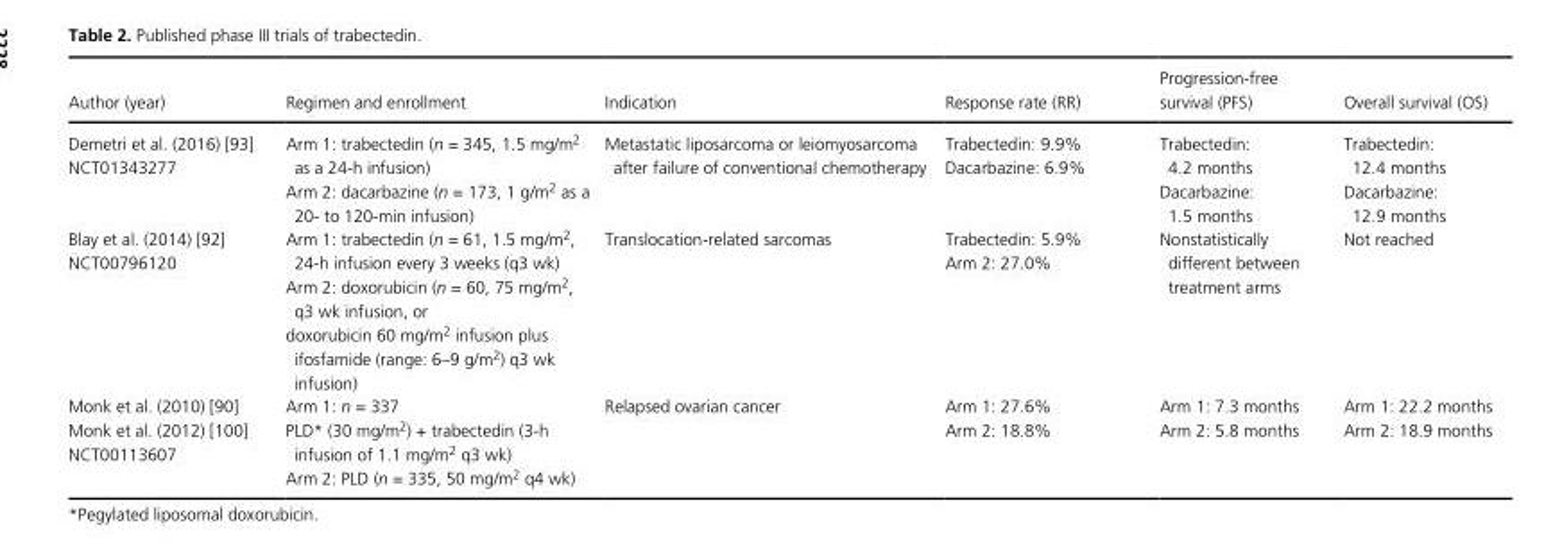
<table><thead><tr><td>Author (year)</td><td>Regimen and enrollment</td><td>Indication</td><td>Response rate (RR)</td><td>Progression- free survival (PFS)</td><td>Overall survival (OS)</td></tr></thead><tbody><tr><td>Demetri et al. (2016) [93] NCT01343277</td><td>Arm 1: trabectedin (n = 345, 1.5 mg/m<sup>2</sup> as a 24- h infusion) Arm 2: dacarbazine (n = 173, 1 g/m<sup>2</sup> as a 20- to 120- min infusion)</td><td>Metastatic liposarcoma or leiomyosarcoma after failure of conventional chemotherapy</td><td>Trabectedin: 9.9% Dacarbazine: 6.9%</td><td>Trabectedin: 4.2 months Dacarbazine: 1.5 months</td><td>Trabectedin: 12.4 months Dacarbazine: 12.9 months</td></tr><tr><td>Blay et al. (2014) [92] NCT00796120</td><td>Arm 1: trabectedin (n = 61, 1.5 mg/m<sup>2</sup>, 24- h infusion every 3 weeks (q3 wk) Arm 2: doxorubicin (n = 60, 75 mg/m<sup>2</sup>, q3 wk infusion, or doxorubicin 60 mg/m<sup>2</sup> infusion plus ifosfamide (range: 6–9 g/m<sup>2</sup>) q3 wk infusion)</td><td>Translocation- related sarcomas</td><td>Trabectedin: 5.9% Arm 2: 27.0%</td><td>Nonstatistically different between treatment arms</td><td>Not reached</td></tr><tr><td>Monk et al. (2010) [90] Monk et al. (2012) [100] NCT00113607</td><td>Arm 1: n = 337 PLD* (30 mg/m2) + trabectedin (3- h infusion of 1.1 mg/m2 q3 wk) Arm 2: PLD (n = 335, 50 mg/m2 q4 wk)</td><td>Relapsed ovarian cancer</td><td>Arm 1: 27.6% Arm 2: 18.8%</td><td>Arm 1: 7.3 months Arm 2: 5.8 months</td><td>Arm 1: 22.2 months Arm 2: 18.9 months</td></tr></tbody></table>